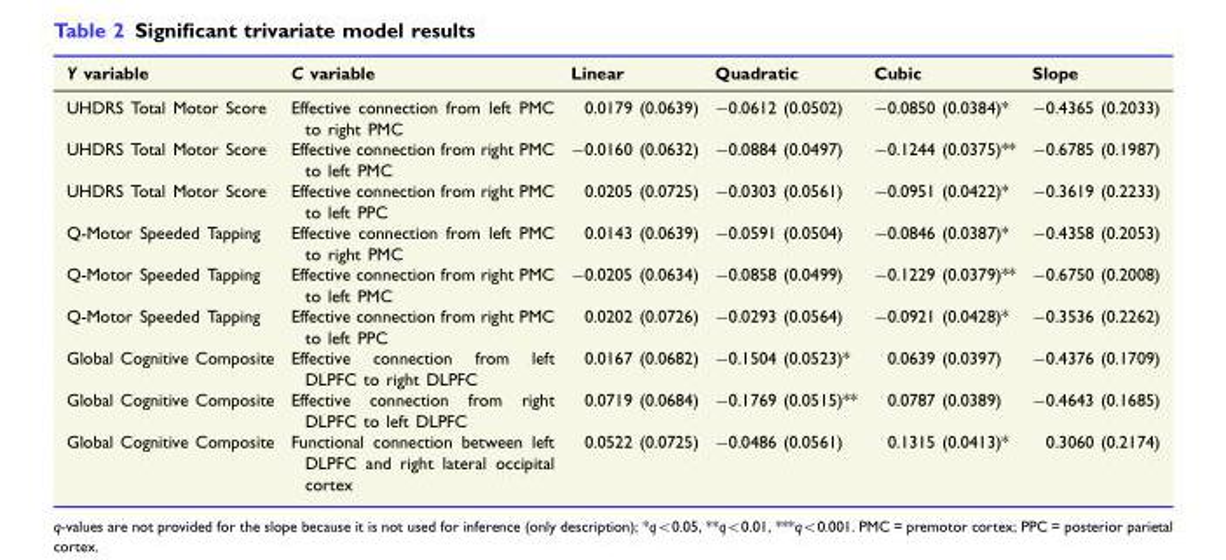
<table><thead><tr><td>Y variable</td><td>C variable</td><td>Linear</td><td>Quadratic</td><td>Cubic</td><td>Slope</td></tr></thead><tbody><tr><td>UHDRS Total Motor Score</td><td>Effective connection from left PMC to right PMC</td><td>0.0179 (0.0639)</td><td>−0.0612 (0.0502)</td><td>−0.0850 (0.0384)*</td><td>−0.4365 (0.2033)</td></tr><tr><td>UHDRS Total Motor Score</td><td>Effective connection from right PMC to left PMC</td><td>−0.0160 (0.0632)</td><td>−0.0884 (0.0497)</td><td>−0.1244 (0.0375)**</td><td>−0.6785 (0.1987)</td></tr><tr><td>UHDRS Total Motor Score</td><td>Effective connection from right PMC to left PPC</td><td>0.0205 (0.0725)</td><td>−0.0303 (0.0561)</td><td>−0.0951 (0.0422)*</td><td>−0.3619 (0.2233)</td></tr><tr><td>Q-Motor Speeded Tapping</td><td>Effective connection from left PMC to right PMC</td><td>0.0143 (0.0639)</td><td>−0.0591 (0.0504)</td><td>−0.0846 (0.0387)*</td><td>−0.4358 (0.2053)</td></tr><tr><td>Q-Motor Speeded Tapping</td><td>Effective connection from right PMC to left PMC</td><td>−0.0205 (0.0634)</td><td>−0.0858 (0.0499)</td><td>−0.1229 (0.0379)**</td><td>−0.6750 (0.2008)</td></tr><tr><td>Q-Motor Speeded Tapping</td><td>Effective connection from right PMC to left PPC</td><td>0.0202 (0.0726)</td><td>−0.0293 (0.0564)</td><td>−0.0921 (0.0428)*</td><td>−0.3536 (0.2262)</td></tr><tr><td>Global Cognitive Composite</td><td>Effective connection from left DLPFC to right DLPFC</td><td>0.0167 (0.0682)</td><td>−0.1504 (0.0523)*</td><td>0.0639 (0.0397)</td><td>−0.4376 (0.1709)</td></tr><tr><td>Global Cognitive Composite</td><td>Effective connection from right DLPFC to left DLPFC</td><td>0.0719 (0.0684)</td><td>−0.1769 (0.0515)**</td><td>0.0787 (0.0389)</td><td>−0.4643 (0.1685)</td></tr><tr><td>Global Cognitive Composite</td><td>Functional connection between left DLPFC and right lateral occipital cortex</td><td>0.0522 (0.0725)</td><td>−0.0486 (0.0561)</td><td>0.1315 (0.0413)*</td><td>0.3060 (0.2174)</td></tr></tbody></table>